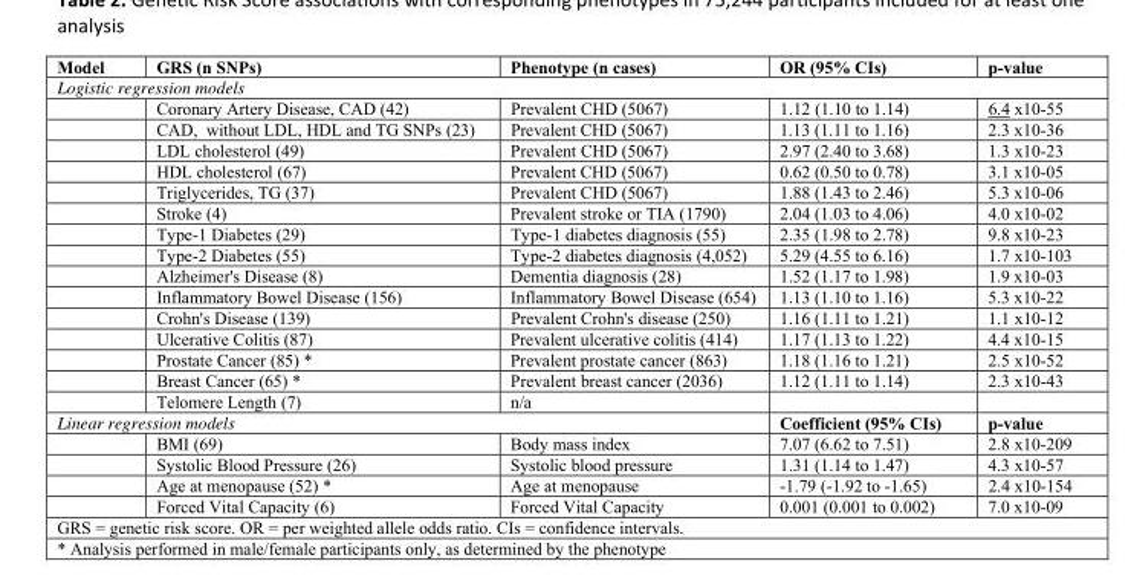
<table><thead><tr><td>Model</td><td>GRS (n SNPs)</td><td>Phenotype (n cases)</td><td>OR (95% CIs)</td><td>p-value</td></tr></thead><tbody><tr><td colspan="5">Logistic regression models</td></tr><tr><td></td><td>Coronary Artery Disease, CAD (42)</td><td>Prevalent CHD (5067)</td><td>1.12 (1.10 to 1.14)</td><td>6.4 x10-55</td></tr><tr><td></td><td>CAD, without LDL, HDL and TG SNPs (23)</td><td>Prevalent CHD (5067)</td><td>1.13 (1.11 to 1.16)</td><td>2.3 x10-36</td></tr><tr><td></td><td>LDL cholesterol (49)</td><td>Prevalent CHD (5067)</td><td>2.97 (2.40 to 3.68)</td><td>1.3 x10-23</td></tr><tr><td></td><td>HDL cholesterol (67)</td><td>Prevalent CHD (5067)</td><td>0.62 (0.50 to 0.78)</td><td>3.1 x10-05</td></tr><tr><td></td><td>Triglycerides, TG (37)</td><td>Prevalent CHD (5067)</td><td>1.88 (1.43 to 2.46)</td><td>5.3 x10-06</td></tr><tr><td></td><td>Stroke (4)</td><td>Prevalent stroke or TIA (1790)</td><td>2.04 (1.03 to 4.06)</td><td>4.0 x10-02</td></tr><tr><td></td><td>Type-1 Diabetes (29)</td><td>Type-1 diabetes diagnosis (55)</td><td>2.35 (1.98 to 2.78)</td><td>9.8 x10-23</td></tr><tr><td></td><td>Type-2 Diabetes (55)</td><td>Type-2 diabetes diagnosis (4,052)</td><td>5.29 (4.55 to 6.16)</td><td>1.7 x10-103</td></tr><tr><td></td><td>Alzheimer&#x27;s Disease (8)</td><td>Dementia diagnosis (28)</td><td>1.52 (1.17 to 1.98)</td><td>1.9 x10-03</td></tr><tr><td></td><td>Inflammatory Bowel Disease (156)</td><td>Inflammatory Bowel Disease (654)</td><td>1.13 (1.10 to 1.16)</td><td>5.3 x10-22</td></tr><tr><td></td><td>Crohn&#x27;s Disease (139)</td><td>Prevalent Crohn&#x27;s disease (250)</td><td>1.16 (1.11 to 1.21)</td><td>1.1 x10-12</td></tr><tr><td></td><td>Ulcerative Colitis (87)</td><td>Prevalent ulcerative colitis (414)</td><td>1.17 (1.13 to 1.22)</td><td>4.4 x10-15</td></tr><tr><td></td><td>Prostate Cancer (85) *</td><td>Prevalent prostate cancer (863)</td><td>1.18 (1.16 to 1.21)</td><td>2.5 x10-52</td></tr><tr><td></td><td>Breast Cancer (65) *</td><td>Prevalent breast cancer (2036)</td><td>1.12 (1.11 to 1.14)</td><td>2.3 x10-43</td></tr><tr><td></td><td>Telomere Length (7)</td><td>n/a</td><td></td><td></td></tr><tr><td colspan="3">Linear regression models</td><td>Coefficient (95% CIs)</td><td>p-value</td></tr><tr><td></td><td>BMI (69)</td><td>Body mass index</td><td>7.07 (6.62 to 7.51)</td><td>2.8 x10-209</td></tr><tr><td></td><td>Systolic Blood Pressure (26)</td><td>Systolic blood pressure</td><td>1.31 (1.14 to 1.47)</td><td>4.3 x10-57</td></tr><tr><td></td><td>Age at menopause (52) *</td><td>Age at menopause</td><td>-1.79 (-1.92 to -1.65)</td><td>2.4 x10-154</td></tr><tr><td></td><td>Forced Vital Capacity (6)</td><td>Forced Vital Capacity</td><td>0.001 (0.001 to 0.002)</td><td>7.0 x10-09</td></tr></tbody></table>